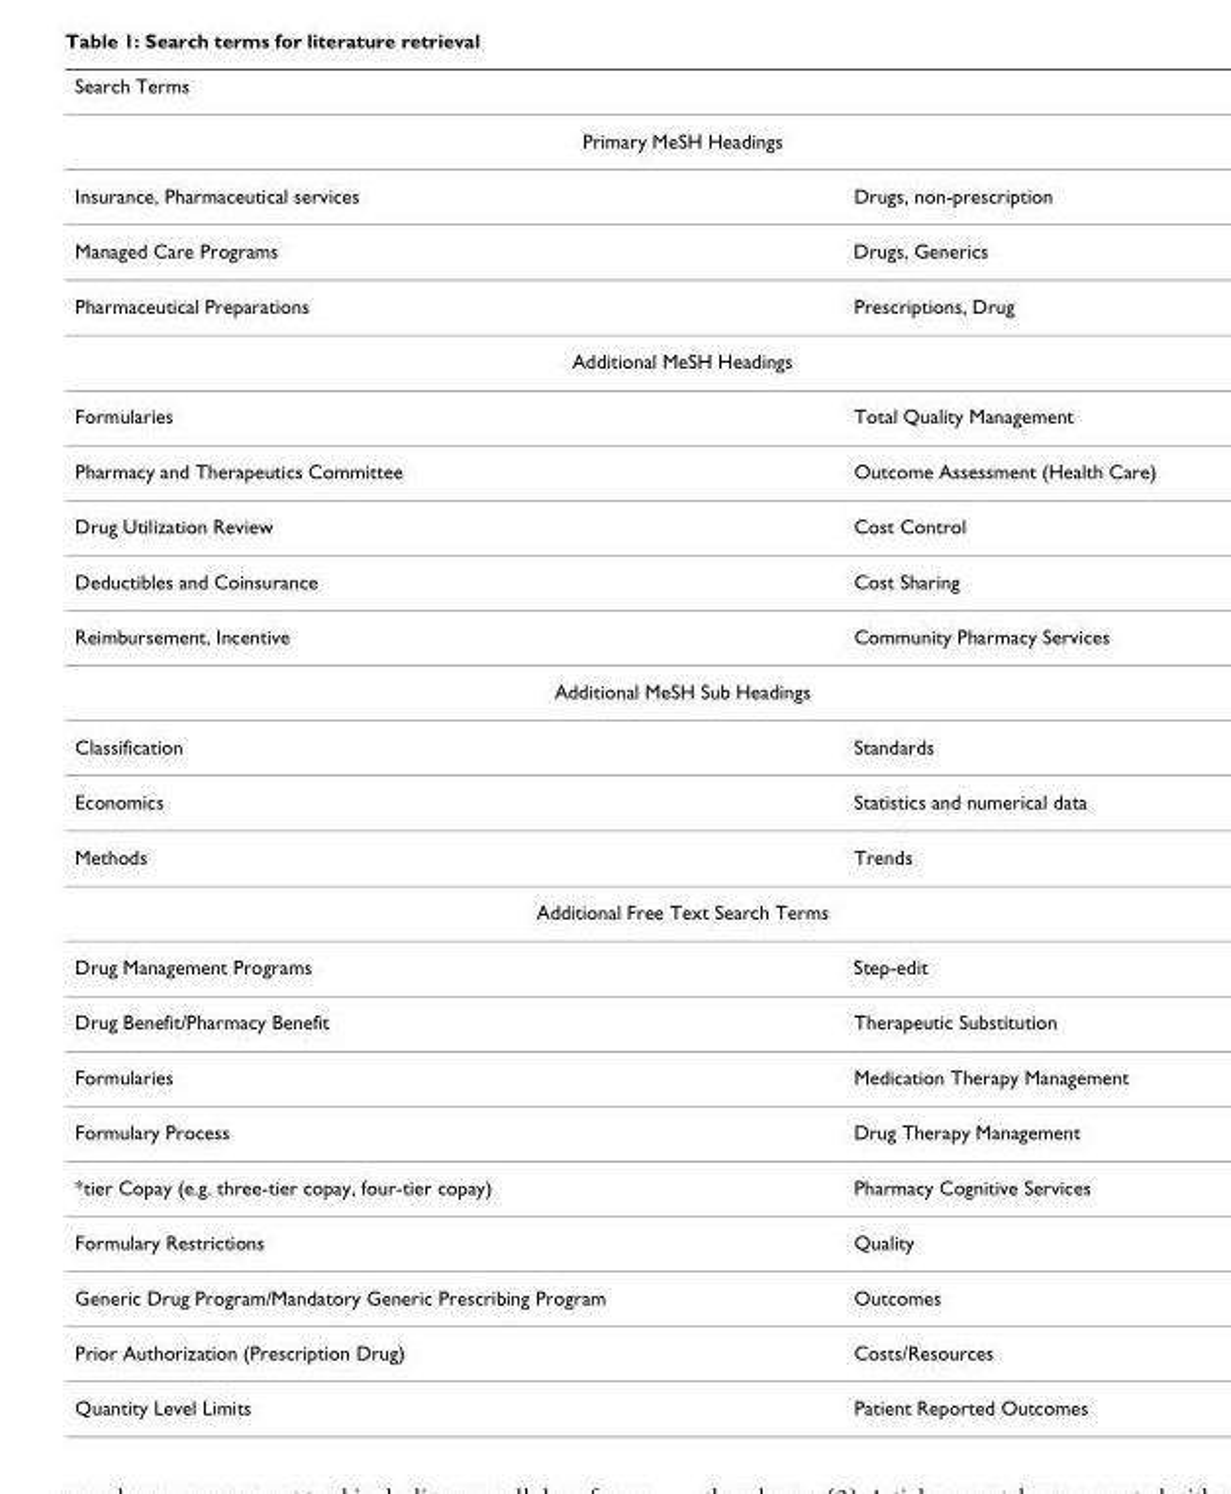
<table><thead><tr><td>Search Terms</td><td></td></tr></thead><tbody><tr><td colspan="2">Primary MeSH Headings</td></tr><tr><td>Insurance, Pharmaceutical services</td><td>Drugs, non-prescription</td></tr><tr><td>Managed Care Programs</td><td>Drugs, Generics</td></tr><tr><td>Pharmaceutical Preparations</td><td>Prescriptions, Drug</td></tr><tr><td colspan="2">Additional MeSH Headings</td></tr><tr><td>Formularies</td><td>Total Quality Management</td></tr><tr><td>Pharmacy and Therapeutics Committee</td><td>Outcome Assessment (Health Care)</td></tr><tr><td>Drug Utilization Review</td><td>Cost Control</td></tr><tr><td>Deductibles and Coinsurance</td><td>Cost Sharing</td></tr><tr><td>Reimbursement, Incentive</td><td>Community Pharmacy Services</td></tr><tr><td colspan="2">Additional MeSH Sub Headings</td></tr><tr><td>Classification</td><td>Standards</td></tr><tr><td>Economics</td><td>Statistics and numerical data</td></tr><tr><td>Methods</td><td>Trends</td></tr><tr><td colspan="2">Additional Free Text Search Terms</td></tr><tr><td>Drug Management Programs</td><td>Step-edit</td></tr><tr><td>Drug Benefit/Pharmacy Benefit</td><td>Therapeutic Substitution</td></tr><tr><td>Formularies</td><td>Medication Therapy Management</td></tr><tr><td>Formulary Process</td><td>Drug Therapy Management</td></tr><tr><td>*tier Copay (e.g. three-tier copay, four-tier copay)</td><td>Pharmacy Cognitive Services</td></tr><tr><td>Formulary Restrictions</td><td>Quality</td></tr><tr><td>Generic Drug Program/Mandatory Generic Prescribing Program</td><td>Outcomes</td></tr><tr><td>Prior Authorization (Prescription Drug)</td><td>Costs/Resources</td></tr><tr><td>Quantity Level Limits</td><td>Patient Reported Outcomes</td></tr></tbody></table>